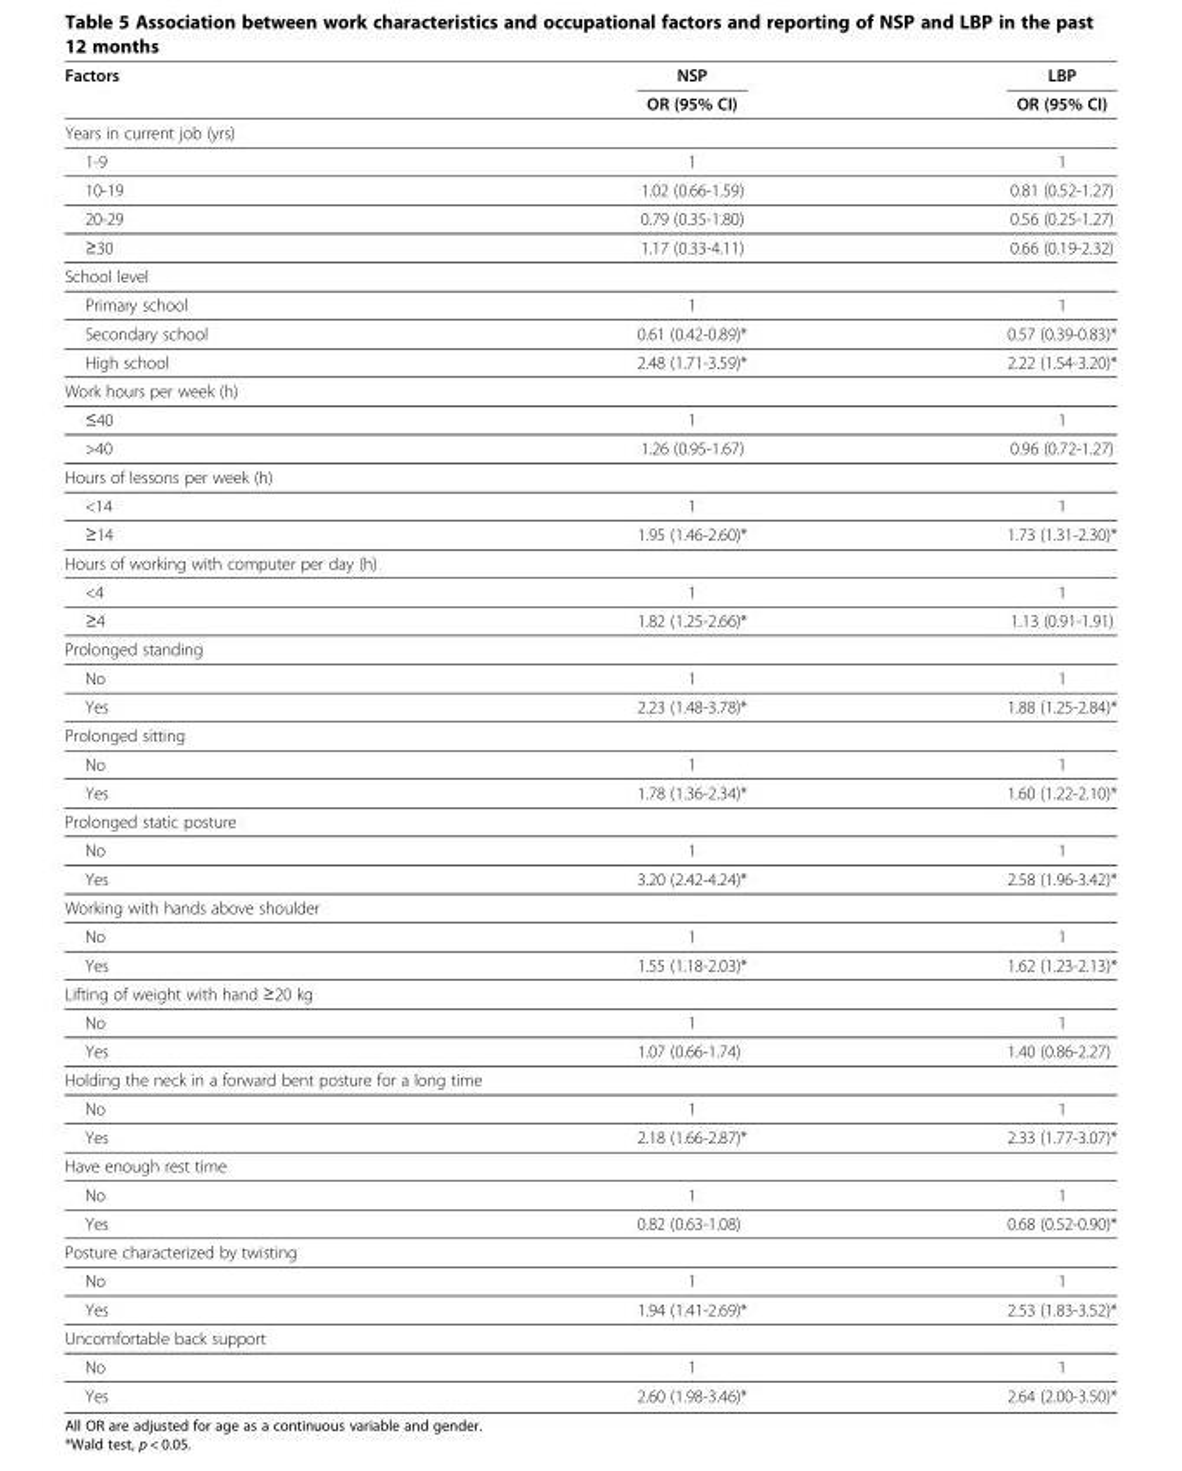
<table><thead><tr><td rowspan="2">Factors</td><td rowspan="2">NSP OR (95% CI)</td><td rowspan="2">LBP OR (95% CI)</td></tr><tr></tr></thead><tbody><tr><td colspan="3">Years in current job (yrs)</td></tr><tr><td>1-9</td><td>1</td><td>1</td></tr><tr><td>10-19</td><td>1.02 (0.66-1.59)</td><td>0.81 (0.52-1.27)</td></tr><tr><td>20-29</td><td>0.79 (0.35-1.80)</td><td>0.56 (0.25-1.27)</td></tr><tr><td>≥30</td><td>1.17 (0.33-4.11)</td><td>0.66 (0.19-2.32)</td></tr><tr><td colspan="3">School level</td></tr><tr><td>Primary school</td><td>1</td><td>1</td></tr><tr><td>Secondary school</td><td>0.61 (0.42-0.89)*</td><td>0.57 (0.39-0.83)*</td></tr><tr><td>High school</td><td>2.48 (1.71-3.59)*</td><td>2.22 (1.54-3.20)*</td></tr><tr><td colspan="3">Work hours per week (h)</td></tr><tr><td>≤40</td><td>1</td><td>1</td></tr><tr><td>&gt;40</td><td>1.26 (0.95-1.67)</td><td>0.96 (0.72-1.27)</td></tr><tr><td colspan="3">Hours of lessons per week (h)</td></tr><tr><td>&lt;14</td><td>1</td><td>1</td></tr><tr><td>≥14</td><td>1.95 (1.46-2.60)*</td><td>1.73 (1.31-2.30)*</td></tr><tr><td colspan="3">Hours of working with computer per day (h)</td></tr><tr><td>&lt;4</td><td>1</td><td>1</td></tr><tr><td>≥4</td><td>1.82 (1.25-2.66)*</td><td>1.13 (0.91-1.91)</td></tr><tr><td colspan="3">Prolonged standing</td></tr><tr><td>No</td><td>1</td><td>1</td></tr><tr><td>Yes</td><td>2.23 (1.48-3.78)*</td><td>1.88 (1.25-2.84)*</td></tr><tr><td colspan="3">Prolonged sitting</td></tr><tr><td>No</td><td>1</td><td>1</td></tr><tr><td>Yes</td><td>1.78 (1.36-2.34)*</td><td>1.60 (1.22-2.10)*</td></tr><tr><td colspan="3">Prolonged static posture</td></tr><tr><td>No</td><td>1</td><td>1</td></tr><tr><td>Yes</td><td>3.20 (2.42-4.24)*</td><td>2.58 (1.96-3.42)*</td></tr><tr><td colspan="3">Working with hands above shoulder</td></tr><tr><td>No</td><td>1</td><td>1</td></tr><tr><td>Yes</td><td>1.55 (1.18-2.03)*</td><td>1.62 (1.23-2.13)*</td></tr><tr><td colspan="3">Lifting of weight with hand ≥20 kg</td></tr><tr><td>No</td><td>1</td><td>1</td></tr><tr><td>Yes</td><td>1.07 (0.66-1.74)</td><td>1.40 (0.86-2.27)</td></tr><tr><td colspan="3">Holding the neck in a forward bent posture for a long time</td></tr><tr><td>No</td><td>1</td><td>1</td></tr><tr><td>Yes</td><td>2.18 (1.66-2.87)*</td><td>2.33 (1.77-3.07)*</td></tr><tr><td colspan="3">Have enough rest time</td></tr><tr><td>No</td><td>1</td><td>1</td></tr><tr><td>Yes</td><td>0.82 (0.63-1.08)</td><td>0.68 (0.52-0.90)*</td></tr><tr><td colspan="3">Posture characterized by twisting</td></tr><tr><td>No</td><td>1</td><td>1</td></tr><tr><td>Yes</td><td>1.94 (1.41-2.69)*</td><td>2.53 (1.83-3.52)*</td></tr><tr><td colspan="3">Uncomfortable back support</td></tr><tr><td>No</td><td>1</td><td>1</td></tr><tr><td>Yes</td><td>2.60 (1.98-3.46)*</td><td>2.64 (2.00-3.50)*</td></tr></tbody></table>